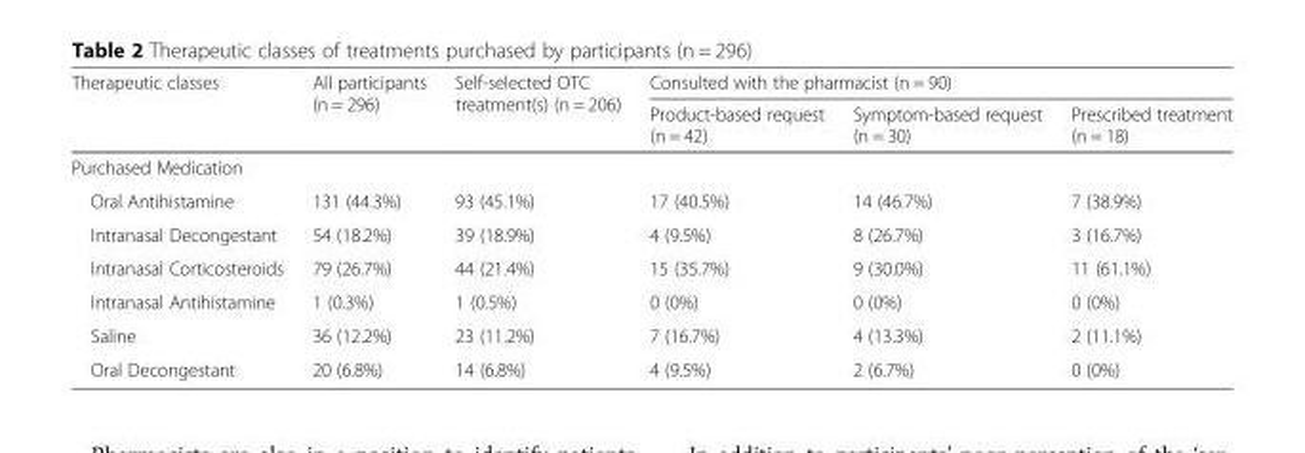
<table><thead><tr><td rowspan="2">Therapeutic classes</td><td rowspan="2">All participants (n = 296)</td><td rowspan="2">Self-selected OTC treatment(s) (n = 206)</td><td colspan="3">Consulted with the pharmacist (n = 90)</td></tr><tr><td>Product-based request (n = 42)</td><td>Symptom-based request (n = 30)</td><td>Prescribed treatment (n = 18)</td></tr></thead><tbody><tr><td colspan="6">Purchased Medication</td></tr><tr><td>Oral Antihistamine</td><td>131 (44.3%)</td><td>93 (45.1%)</td><td>17 (40.5%)</td><td>14 (46.7%)</td><td>7 (38.9%)</td></tr><tr><td>Intranasal Decongestant</td><td>54 (18.2%)</td><td>39 (18.9%)</td><td>4 (9.5%)</td><td>8 (26.7%)</td><td>3 (16.7%)</td></tr><tr><td>Intranasal Corticosteroids</td><td>79 (26.7%)</td><td>44 (21.4%)</td><td>15 (35.7%)</td><td>9 (30.0%)</td><td>11 (61.1%)</td></tr><tr><td>Intranasal Antihistamine</td><td>1 (0.3%)</td><td>1 (0.5%)</td><td>0 (0%)</td><td>0 (0%)</td><td>0 (0%)</td></tr><tr><td>Saline</td><td>36 (12.2%)</td><td>23 (11.2%)</td><td>7 (16.7%)</td><td>4 (13.3%)</td><td>2 (11.1%)</td></tr><tr><td>Oral Decongestant</td><td>20 (6.8%)</td><td>14 (6.8%)</td><td>4 (9.5%)</td><td>2 (6.7%)</td><td>0 (0%)</td></tr></tbody></table>